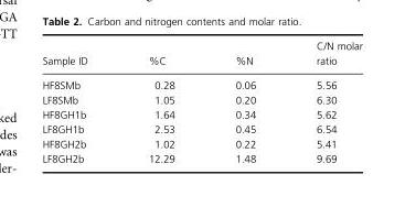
<table><thead><tr><td>Sample ID</td><td>%C</td><td>%N</td><td>C/N molar ratio</td></tr></thead><tbody><tr><td>HF8SMb</td><td>0.28</td><td>0.06</td><td>5.56</td></tr><tr><td>LF8SMb</td><td>1.05</td><td>0.20</td><td>6.30</td></tr><tr><td>HF8GH1b</td><td>1.64</td><td>0.34</td><td>5.62</td></tr><tr><td>LF8GH1b</td><td>2.53</td><td>0.45</td><td>6.54</td></tr><tr><td>HF8GH2b</td><td>1.02</td><td>0.22</td><td>5.41</td></tr><tr><td>LF8GH2b</td><td>12.29</td><td>1.48</td><td>9.69</td></tr></tbody></table>